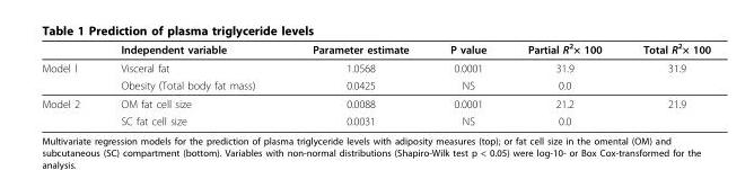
<table><thead><tr><td></td><td>Independent variable</td><td>Parameter estimate</td><td>P value</td><td>Partial R<sup>2</sup>× 100</td><td>Total R<sup>2</sup>× 100</td></tr></thead><tbody><tr><td rowspan="2">Model l</td><td>Visceral fat</td><td>1.0568</td><td>0.0001</td><td>31.9</td><td>31.9</td></tr><tr><td>Obesity (Total body fat mass)</td><td>0.0425</td><td>NS</td><td>0.0</td><td></td></tr><tr><td rowspan="2">Model 2</td><td>OM fat cell size</td><td>0.0088</td><td>0.0001</td><td>21.2</td><td>21.9</td></tr><tr><td>SC fat cell size</td><td>0.0031</td><td>NS</td><td>0.0</td><td></td></tr></tbody></table>